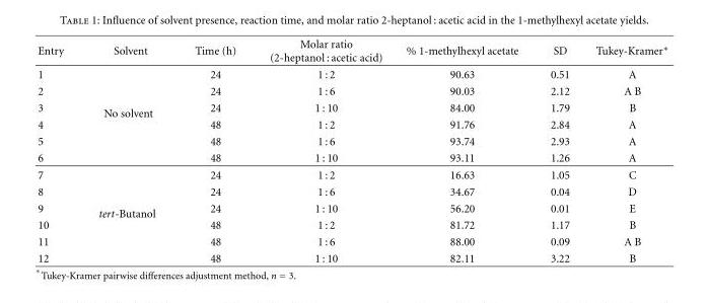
<table><thead><tr><td>Entry</td><td>Solvent</td><td>Time (h)</td><td>Molar ratio (2-heptanol : acetic acid)</td><td>% 1-methylhexyl acetate</td><td>SD</td><td>Tukey-Kramer∗</td></tr></thead><tbody><tr><td>1</td><td rowspan="6">No solvent</td><td>24</td><td>1 : 2</td><td>90.63</td><td>0.51</td><td>A</td></tr><tr><td>2</td><td>24</td><td>1 : 6</td><td>90.03</td><td>2.12</td><td>A B</td></tr><tr><td>3</td><td>24</td><td>1 : 10</td><td>84.00</td><td>1.79</td><td>B</td></tr><tr><td>4</td><td>48</td><td>1 : 2</td><td>91.76</td><td>2.84</td><td>A</td></tr><tr><td>5</td><td>48</td><td>1 : 6</td><td>93.74</td><td>2.93</td><td>A</td></tr><tr><td>6</td><td>48</td><td>1 : 10</td><td>93.11</td><td>1.26</td><td>A</td></tr><tr><td>7</td><td rowspan="6">tert-Butanol</td><td>24</td><td>1 : 2</td><td>16.63</td><td>1.05</td><td>C</td></tr><tr><td>8</td><td>24</td><td>1 : 6</td><td>34.67</td><td>0.04</td><td>D</td></tr><tr><td>9</td><td>24</td><td>1 : 10</td><td>56.20</td><td>0.01</td><td>E</td></tr><tr><td>10</td><td>48</td><td>1 : 2</td><td>81.72</td><td>1.17</td><td>B</td></tr><tr><td>11</td><td>48</td><td>1 : 6</td><td>88.00</td><td>0.09</td><td>A B</td></tr><tr><td>12</td><td>48</td><td>1 : 10</td><td>82.11</td><td>3.22</td><td>B</td></tr></tbody></table>